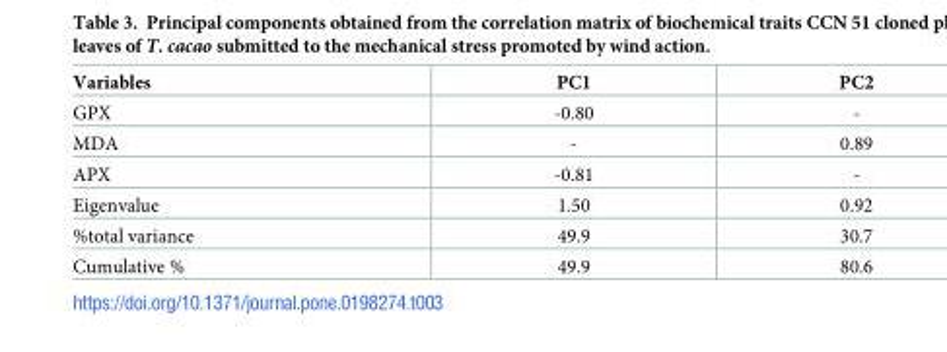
<table><thead><tr><td>Variables</td><td>PC1</td><td>PC2</td></tr></thead><tbody><tr><td>GPX</td><td>-0.80</td><td>-</td></tr><tr><td>MDA</td><td>-</td><td>0.89</td></tr><tr><td>APX</td><td>-0.81</td><td>-</td></tr><tr><td>Eigenvalue</td><td>1.50</td><td>0.92</td></tr><tr><td>%total variance</td><td>49.9</td><td>30.7</td></tr><tr><td>Cumulative %</td><td>49.9</td><td>80.6</td></tr></tbody></table>